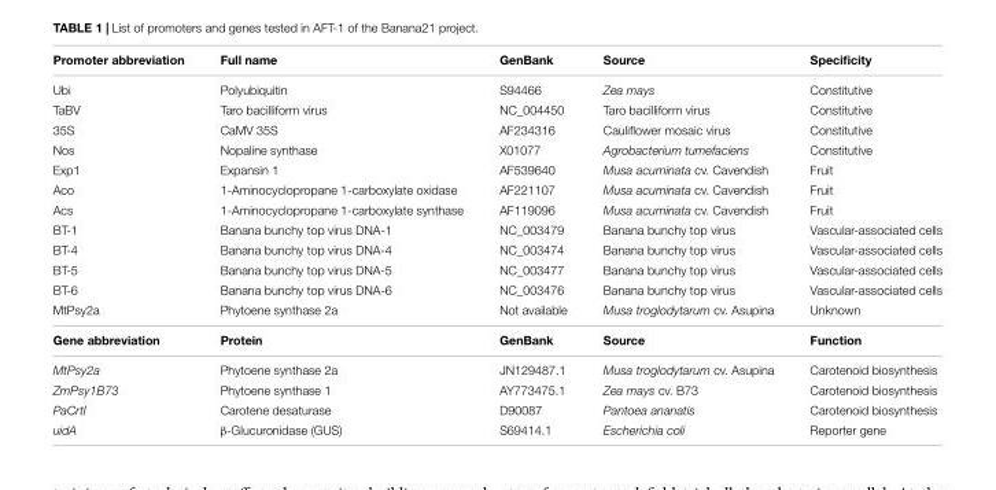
<table><thead><tr><td>Promoter abbreviation</td><td>Full name</td><td>GenBank</td><td>Source</td><td>Specificity</td></tr></thead><tbody><tr><td>Ubi</td><td>Polyubiquitin</td><td>S94466</td><td>Zea mays</td><td>Constitutive</td></tr><tr><td>TaBV</td><td>Taro bacilliform virus</td><td>NC_004450</td><td>Taro bacilliform virus</td><td>Constitutive</td></tr><tr><td>35S</td><td>CaMV 35S</td><td>AF234316</td><td>Cauliflower mosaic virus</td><td>Constitutive</td></tr><tr><td>Nos</td><td>Nopaline synthase</td><td>X01077</td><td>Agrobacterium tumefaciens</td><td>Constitutive</td></tr><tr><td>Exp1</td><td>Expansin 1</td><td>AF539640</td><td>Musa acuminata cv. Cavendish</td><td>Fruit</td></tr><tr><td>Aco</td><td>1-Aminocyclopropane 1-carboxylate oxidase</td><td>AF221107</td><td>Musa acuminata cv. Cavendish</td><td>Fruit</td></tr><tr><td>Acs</td><td>1-Aminocyclopropane 1-carboxylate synthase</td><td>AF119096</td><td>Musa acuminata cv. Cavendish</td><td>Fruit</td></tr><tr><td>BT-1</td><td>Banana bunchy top virus DNA-1</td><td>NC_003479</td><td>Banana bunchy top virus</td><td>Vascular-associated cells</td></tr><tr><td>BT-4</td><td>Banana bunchy top virus DNA-4</td><td>NC_003474</td><td>Banana bunchy top virus</td><td>Vascular-associated cells</td></tr><tr><td>BT-5</td><td>Banana bunchy top virus DNA-5</td><td>NC_003477</td><td>Banana bunchy top virus</td><td>Vascular-associated cells</td></tr><tr><td>BT-6</td><td>Banana bunchy top virus DNA-6</td><td>NC_003476</td><td>Banana bunchy top virus</td><td>Vascular-associated cells</td></tr><tr><td>MtPsy2a</td><td>Phytoene synthase 2a</td><td>Not available</td><td>Musa troglodytarum cv. Asupina</td><td>Unknown</td></tr><tr><td>Gene abbreviation</td><td>Protein</td><td>GenBank</td><td>Source</td><td>Function</td></tr><tr><td>MtPsy2a</td><td>Phytoene synthase 2a</td><td>JN129487.1</td><td>Musa troglodytarum cv. Asupina</td><td>Carotenoid biosynthesis</td></tr><tr><td>ZmPsy1B73</td><td>Phytoene synthase 1</td><td>AY773475.1</td><td>Zea mays cv. B73</td><td>Carotenoid biosynthesis</td></tr><tr><td>PaCrtI</td><td>Carotene desaturase</td><td>D90087</td><td>Pantoea ananatis</td><td>Carotenoid biosynthesis</td></tr><tr><td>uidA</td><td>β-Glucuronidase (GUS)</td><td>S69414.1</td><td>Escherichia coli</td><td>Reporter gene</td></tr></tbody></table>